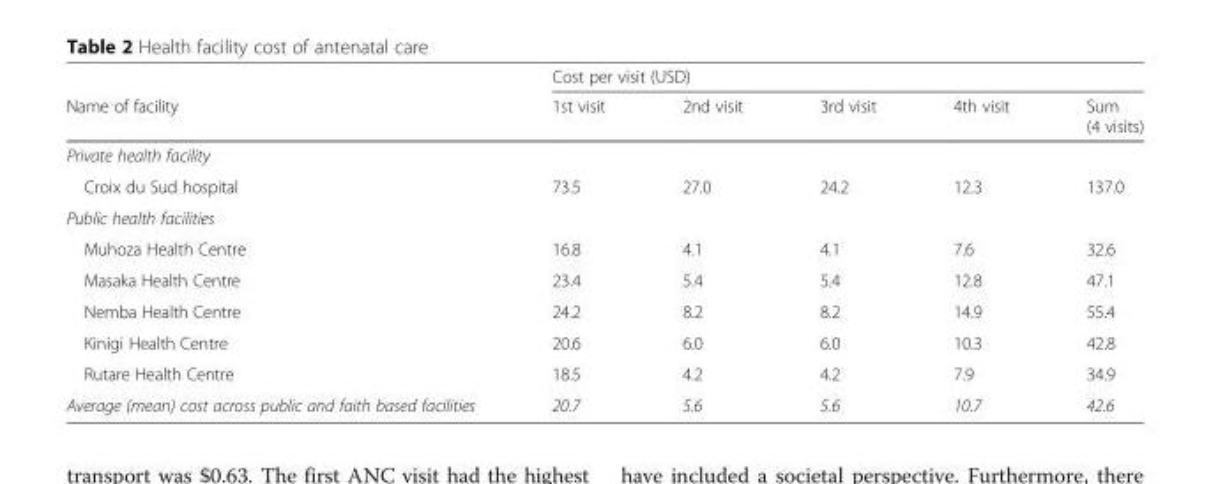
<table><thead><tr><td rowspan="2">Name of facility</td><td colspan="5">Cost per visit (USD)</td></tr><tr><td>1st visit</td><td>2nd visit</td><td>3rd visit</td><td>4th visit</td><td>Sum (4 visits)</td></tr></thead><tbody><tr><td colspan="6">Private health facility</td></tr><tr><td>Croix du Sud hospital</td><td>73.5</td><td>27.0</td><td>24.2</td><td>12.3</td><td>137.0</td></tr><tr><td colspan="6">Public health facilities</td></tr><tr><td>Muhoza Health Centre</td><td>16.8</td><td>4.1</td><td>4.1</td><td>7.6</td><td>32.6</td></tr><tr><td>Masaka Health Centre</td><td>23.4</td><td>5.4</td><td>5.4</td><td>12.8</td><td>47.1</td></tr><tr><td>Nemba Health Centre</td><td>24.2</td><td>8.2</td><td>8.2</td><td>14.9</td><td>55.4</td></tr><tr><td>Kinigi Health Centre</td><td>20.6</td><td>6.0</td><td>6.0</td><td>10.3</td><td>42.8</td></tr><tr><td>Rutare Health Centre</td><td>18.5</td><td>4.2</td><td>4.2</td><td>7.9</td><td>34.9</td></tr><tr><td>Average (mean) cost across public and faith based facilities</td><td>20.7</td><td>5.6</td><td>5.6</td><td>10.7</td><td>42.6</td></tr></tbody></table>